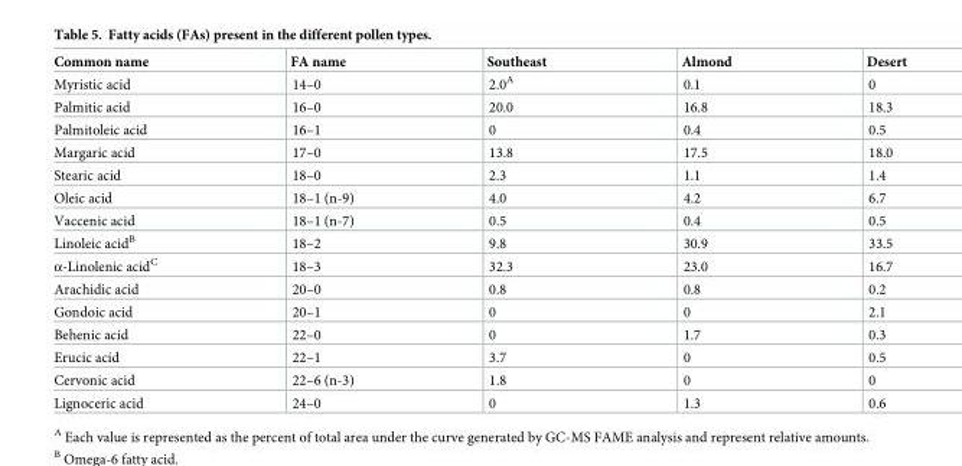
<table><thead><tr><td>Common name</td><td>FA name</td><td>Southeast</td><td>Almond</td><td>Desert</td></tr></thead><tbody><tr><td>Myristic acid</td><td>14–0</td><td>2.0<sup>A</sup></td><td>0.1</td><td>0</td></tr><tr><td>Palmitic acid</td><td>16–0</td><td>20.0</td><td>16.8</td><td>18.3</td></tr><tr><td>Palmitoleic acid</td><td>16–1</td><td>0</td><td>0.4</td><td>0.5</td></tr><tr><td>Margaric acid</td><td>17–0</td><td>13.8</td><td>17.5</td><td>18.0</td></tr><tr><td>Stearic acid</td><td>18–0</td><td>2.3</td><td>1.1</td><td>1.4</td></tr><tr><td>Oleic acid</td><td>18–1 (n-9)</td><td>4.0</td><td>4.2</td><td>6.7</td></tr><tr><td>Vaccenic acid</td><td>18–1 (n-7)</td><td>0.5</td><td>0.4</td><td>0.5</td></tr><tr><td>Linoleic acid<sup>B</sup></td><td>18–2</td><td>9.8</td><td>30.9</td><td>33.5</td></tr><tr><td>α-Linolenic acid<sup>C</sup></td><td>18–3</td><td>32.3</td><td>23.0</td><td>16.7</td></tr><tr><td>Arachidic acid</td><td>20–0</td><td>0.8</td><td>0.8</td><td>0.2</td></tr><tr><td>Gondoic acid</td><td>20–1</td><td>0</td><td>0</td><td>2.1</td></tr><tr><td>Behenic acid</td><td>22–0</td><td>0</td><td>1.7</td><td>0.3</td></tr><tr><td>Erucic acid</td><td>22–1</td><td>3.7</td><td>0</td><td>0.5</td></tr><tr><td>Cervonic acid</td><td>22–6 (n-3)</td><td>1.8</td><td>0</td><td>0</td></tr><tr><td>Lignoceric acid</td><td>24–0</td><td>0</td><td>1.3</td><td>0.6</td></tr></tbody></table>